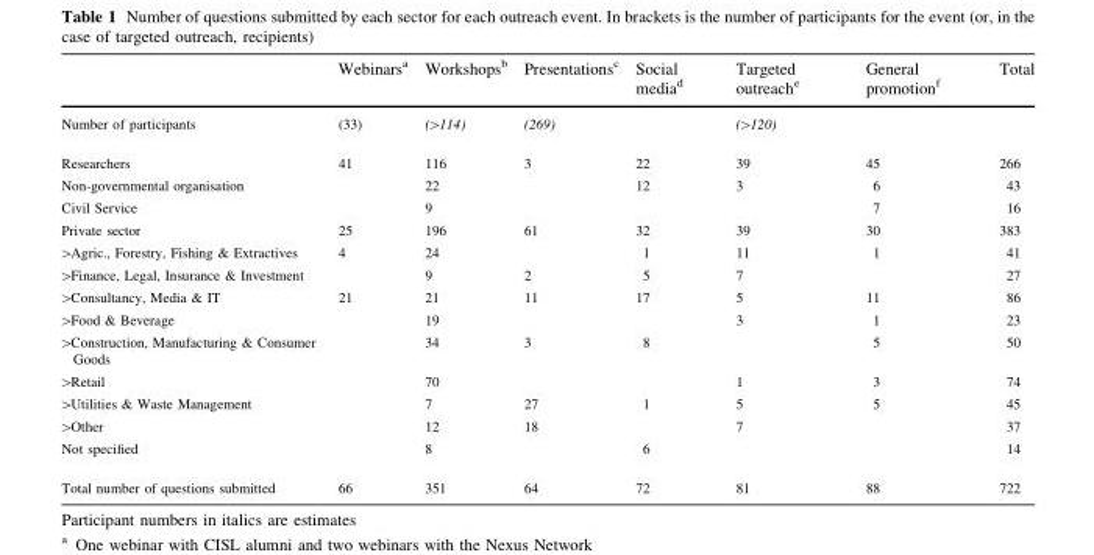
<table><thead><tr><td></td><td>Webinars<sup>a</sup></td><td>Workshops<sup>b</sup></td><td>Presentations<sup>c</sup></td><td>Social media<sup>d</sup></td><td>Targeted outreach<sup>e</sup></td><td>General promotion<sup>f</sup></td><td>Total</td></tr></thead><tbody><tr><td>Number of participants</td><td>(33)</td><td>(&gt;114)</td><td>(269)</td><td></td><td>(&gt;120)</td><td></td><td></td></tr><tr><td>Researchers</td><td>41</td><td>116</td><td>3</td><td>22</td><td>39</td><td>45</td><td>266</td></tr><tr><td>Non-governmental organisation</td><td></td><td>22</td><td></td><td>12</td><td>3</td><td>6</td><td>43</td></tr><tr><td>Civil Service</td><td></td><td>9</td><td></td><td></td><td></td><td>7</td><td>16</td></tr><tr><td>Private sector</td><td>25</td><td>196</td><td>61</td><td>32</td><td>39</td><td>30</td><td>383</td></tr><tr><td>&gt;Agric., Forestry, Fishing &amp; Extractives</td><td>4</td><td>24</td><td></td><td>1</td><td>11</td><td>1</td><td>41</td></tr><tr><td>&gt;Finance, Legal, Insurance &amp; Investment</td><td></td><td>9</td><td>2</td><td>5</td><td>7</td><td></td><td>27</td></tr><tr><td>&gt;Consultancy, Media &amp; IT</td><td>21</td><td>21</td><td>11</td><td>17</td><td>5</td><td>11</td><td>86</td></tr><tr><td>&gt;Food &amp; Beverage</td><td></td><td>19</td><td></td><td></td><td>3</td><td>1</td><td>23</td></tr><tr><td>&gt;Construction, Manufacturing &amp; Consumer Goods</td><td></td><td>34</td><td>3</td><td>8</td><td></td><td>5</td><td>50</td></tr><tr><td>&gt;Retail</td><td></td><td>70</td><td></td><td></td><td>1</td><td>3</td><td>74</td></tr><tr><td>&gt;Utilities &amp; Waste Management</td><td></td><td>7</td><td>27</td><td>1</td><td>5</td><td>5</td><td>45</td></tr><tr><td>&gt;Other</td><td></td><td>12</td><td>18</td><td></td><td>7</td><td></td><td>37</td></tr><tr><td>Not specified</td><td></td><td>8</td><td></td><td>6</td><td></td><td></td><td>14</td></tr><tr><td>Total number of questions submitted</td><td>66</td><td>351</td><td>64</td><td>72</td><td>81</td><td>88</td><td>722</td></tr></tbody></table>